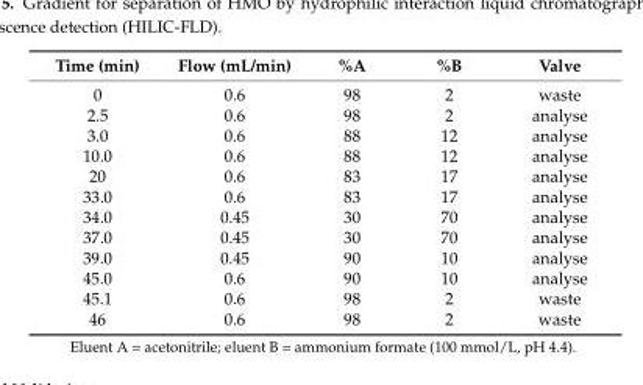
<table><thead><tr><td>Time (min)</td><td>Flow (mL/min)</td><td>%A</td><td>%B</td><td>Valve</td></tr></thead><tbody><tr><td>0</td><td>0.6</td><td>98</td><td>2</td><td>waste</td></tr><tr><td>2.5</td><td>0.6</td><td>98</td><td>2</td><td>analyse</td></tr><tr><td>3.0</td><td>0.6</td><td>88</td><td>12</td><td>analyse</td></tr><tr><td>10.0</td><td>0.6</td><td>88</td><td>12</td><td>analyse</td></tr><tr><td>20</td><td>0.6</td><td>83</td><td>17</td><td>analyse</td></tr><tr><td>33.0</td><td>0.6</td><td>83</td><td>17</td><td>analyse</td></tr><tr><td>34.0</td><td>0.45</td><td>30</td><td>70</td><td>analyse</td></tr><tr><td>37.0</td><td>0.45</td><td>30</td><td>70</td><td>analyse</td></tr><tr><td>39.0</td><td>0.45</td><td>90</td><td>10</td><td>analyse</td></tr><tr><td>45.0</td><td>0.6</td><td>90</td><td>10</td><td>analyse</td></tr><tr><td>45.1</td><td>0.6</td><td>98</td><td>2</td><td>waste</td></tr><tr><td>46</td><td>0.6</td><td>98</td><td>2</td><td>waste</td></tr></tbody></table>